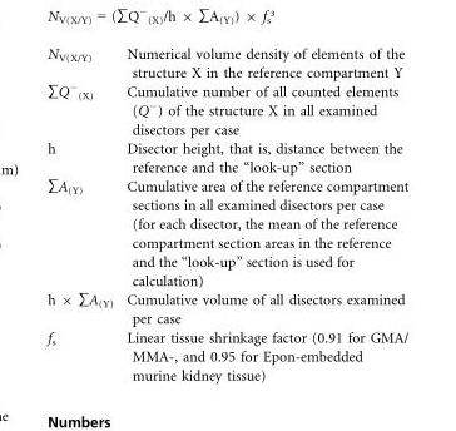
<table><tbody><tr><td>N<sub>V(X/Y)</sub></td><td>Numerical volume density of elements of the structure X in the reference compartment Y</td></tr><tr><td>∑Q<sup>−</sup> <sub>(X)</sub></td><td>Cumulative number of all counted elements (Q<sup>−</sup>) of the structure X in all examined disectors per case</td></tr><tr><td>h</td><td>Disector height, that is, distance between the reference and the “look-up” section</td></tr><tr><td>∑A<sub>(Y)</sub></td><td>Cumulative area of the reference compartment sections in all examined disectors per case (for each disector, the mean of the reference compartment section areas in the reference and the “look-up” section is used for calculation)</td></tr><tr><td>h × ∑A<sub>(Y)</sub></td><td>Cumulative volume of all disectors examined per case</td></tr><tr><td>f<sub>s</sub></td><td>Linear tissue shrinkage factor (0.91 for GMA/ MMA-, and 0.95 for Epon-embedded murine kidney tissue)</td></tr></tbody></table>